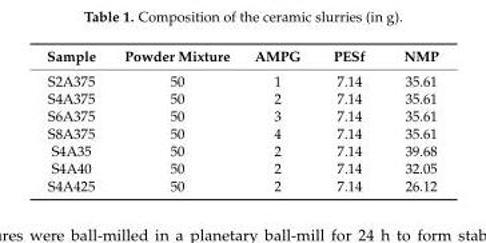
<table><thead><tr><td>Sample</td><td>Powder Mixture</td><td>AMPG</td><td>PESf</td><td>NMP</td></tr></thead><tbody><tr><td>S2A375</td><td>50</td><td>1</td><td>7.14</td><td>35.61</td></tr><tr><td>S4A375</td><td>50</td><td>2</td><td>7.14</td><td>35.61</td></tr><tr><td>S6A375</td><td>50</td><td>3</td><td>7.14</td><td>35.61</td></tr><tr><td>S8A375</td><td>50</td><td>4</td><td>7.14</td><td>35.61</td></tr><tr><td>S4A35</td><td>50</td><td>2</td><td>7.14</td><td>39.68</td></tr><tr><td>S4A40</td><td>50</td><td>2</td><td>7.14</td><td>32.05</td></tr><tr><td>S4A425</td><td>50</td><td>2</td><td>7.14</td><td>26.12</td></tr></tbody></table>